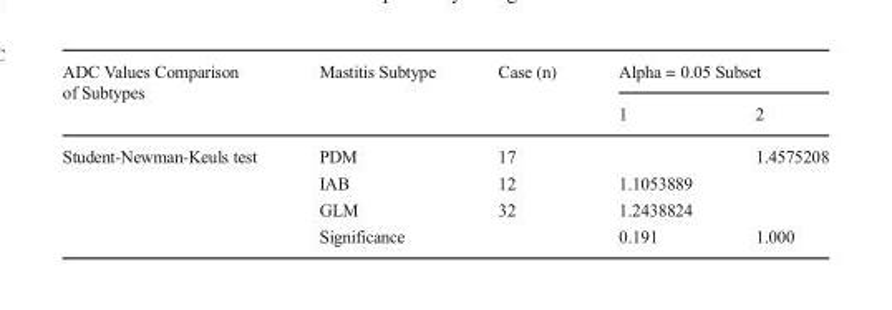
<table><thead><tr><td rowspan="2">ADC Values Comparison of Subtypes</td><td rowspan="2">Mastitis Subtype</td><td rowspan="2">Case (n)</td><td colspan="2">Alpha = 0.05 Subset</td></tr><tr><td>1</td><td>2</td></tr></thead><tbody><tr><td rowspan="4">Student-Newman-Keuls test</td><td>PDM</td><td>17</td><td></td><td>1.4575208</td></tr><tr><td>IAB</td><td>12</td><td>1.1053889</td><td></td></tr><tr><td>GLM</td><td>32</td><td>1.2438824</td><td></td></tr><tr><td>Significance</td><td></td><td>0.191</td><td>1.000</td></tr></tbody></table>